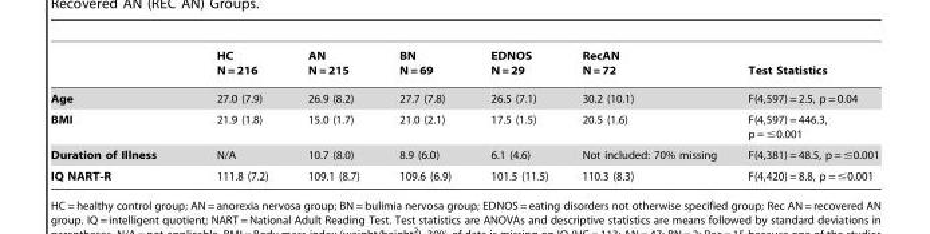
<table><thead><tr><td></td><td>HC N = 216</td><td>AN N = 215</td><td>BN N = 69</td><td>EDNOS N = 29</td><td>RecAN N = 72</td><td>Test Statistics</td></tr></thead><tbody><tr><td>Age</td><td>27.0 (7.9)</td><td>26.9 (8.2)</td><td>27.7 (7.8)</td><td>26.5 (7.1)</td><td>30.2 (10.1)</td><td>F(4,597) = 2.5, p = 0.04</td></tr><tr><td>BMI</td><td>21.9 (1.8)</td><td>15.0 (1.7)</td><td>21.0 (2.1)</td><td>17.5 (1.5)</td><td>20.5 (1.6)</td><td>F(4,597) = 446.3, p = ≤0.001</td></tr><tr><td>Duration of Illness</td><td>N/A</td><td>10.7 (8.0)</td><td>8.9 (6.0)</td><td>6.1 (4.6)</td><td>Not included: 70% missing</td><td>F(4,381) = 48.5, p = ≤0.001</td></tr><tr><td>IQ NART-R</td><td>111.8 (7.2)</td><td>109.1 (8.7)</td><td>109.6 (6.9)</td><td>101.5 (11.5)</td><td>110.3 (8.3)</td><td>F(4,420) = 8.8, p = ≤0.001</td></tr></tbody></table>